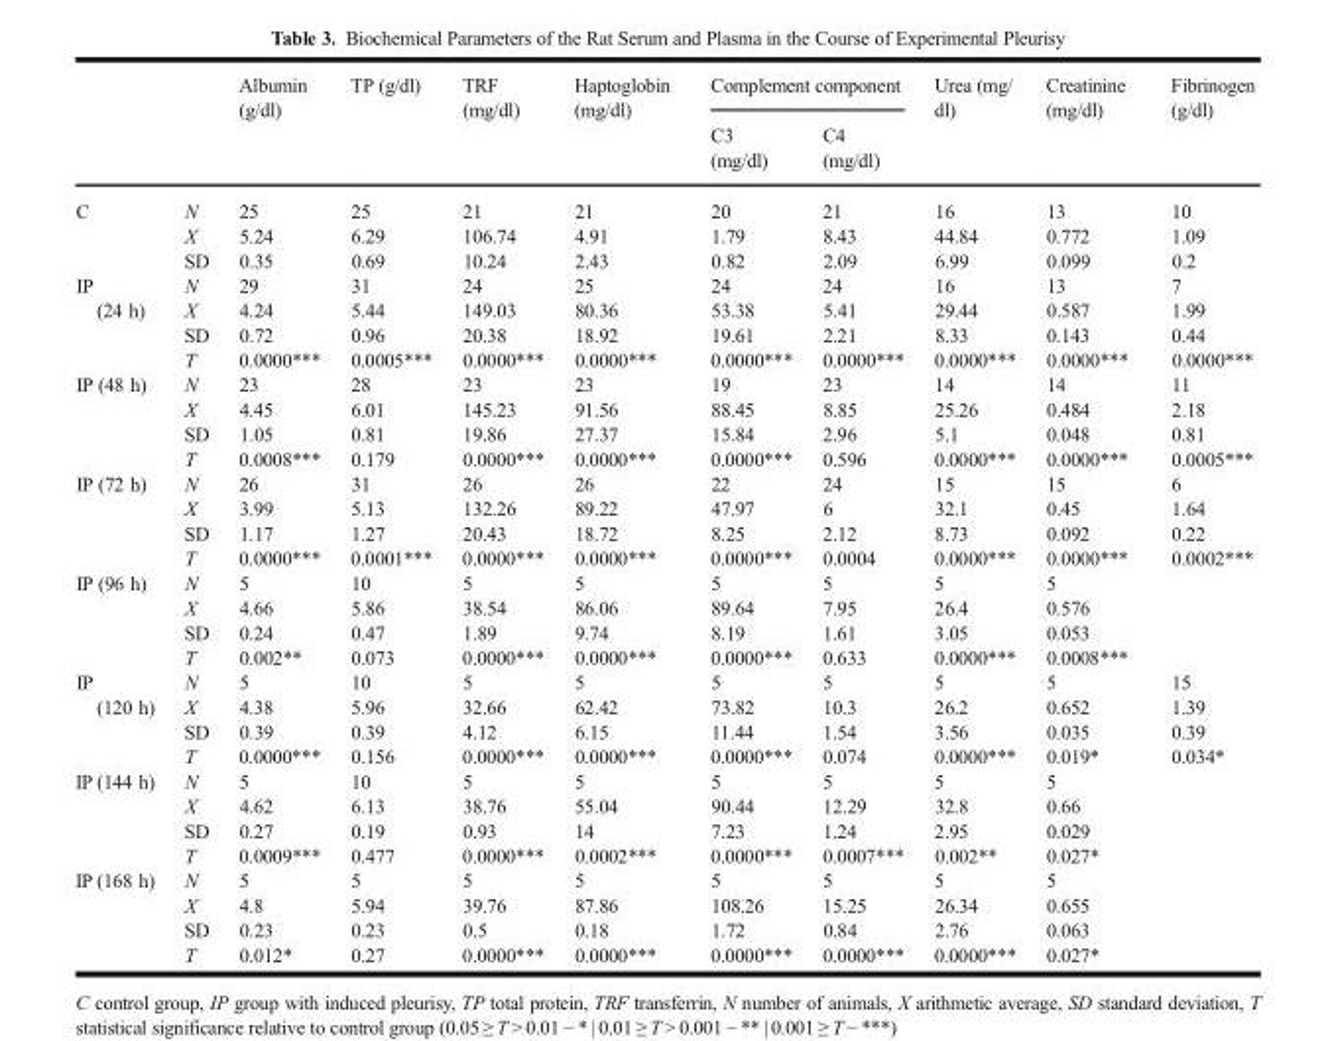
<table><thead><tr><td rowspan="2"></td><td rowspan="2"></td><td rowspan="2">Albumin (g/dl)</td><td rowspan="2">TP (g/dl)</td><td rowspan="2">TRF (mg/dl)</td><td rowspan="2">Haptoglobin (mg/dl)</td><td colspan="2">Complement component</td><td rowspan="2">Urea (mg/ dl)</td><td rowspan="2">Creatinine (mg/dl)</td><td rowspan="2">Fibrinogen (g/dl)</td></tr><tr><td>C3 (mg/dl)</td><td>C4 (mg/dl)</td></tr></thead><tbody><tr><td rowspan="3">C</td><td>N</td><td>25</td><td>25</td><td>21</td><td>21</td><td>20</td><td>21</td><td>16</td><td>13</td><td>10</td></tr><tr><td>X</td><td>5.24</td><td>6.29</td><td>106.74</td><td>4.91</td><td>1.79</td><td>8.43</td><td>44.84</td><td>0.772</td><td>1.09</td></tr><tr><td>SD</td><td>0.35</td><td>0.69</td><td>10.24</td><td>2.43</td><td>0.82</td><td>2.09</td><td>6.99</td><td>0.099</td><td>0.2</td></tr><tr><td rowspan="4">IP (24 h)</td><td>N</td><td>29</td><td>31</td><td>24</td><td>25</td><td>24</td><td>24</td><td>16</td><td>13</td><td>7</td></tr><tr><td>X</td><td>4.24</td><td>5.44</td><td>149.03</td><td>80.36</td><td>53.38</td><td>5.41</td><td>29.44</td><td>0.587</td><td>1.99</td></tr><tr><td>SD</td><td>0.72</td><td>0.96</td><td>20.38</td><td>18.92</td><td>19.61</td><td>2.21</td><td>8.33</td><td>0.143</td><td>0.44</td></tr><tr><td>T</td><td>0.0000***</td><td>0.0005***</td><td>0.0000***</td><td>0.0000***</td><td>0.0000***</td><td>0.0000***</td><td>0.0000***</td><td>0.0000***</td><td>0.0000***</td></tr><tr><td rowspan="4">IP (48 h)</td><td>N</td><td>23</td><td>28</td><td>23</td><td>23</td><td>19</td><td>23</td><td>14</td><td>14</td><td>11</td></tr><tr><td>X</td><td>4.45</td><td>6.01</td><td>145.23</td><td>91.56</td><td>88.45</td><td>8.85</td><td>25.26</td><td>0.484</td><td>2.18</td></tr><tr><td>SD</td><td>1.05</td><td>0.81</td><td>19.86</td><td>27.37</td><td>15.84</td><td>2.96</td><td>5.1</td><td>0.048</td><td>0.81</td></tr><tr><td>T</td><td>0.0008***</td><td>0.179</td><td>0.0000***</td><td>0.0000***</td><td>0.0000***</td><td>0.596</td><td>0.0000***</td><td>0.0000***</td><td>0.0005***</td></tr><tr><td rowspan="4">IP (72 h)</td><td>N</td><td>26</td><td>31</td><td>26</td><td>26</td><td>22</td><td>24</td><td>15</td><td>15</td><td>6</td></tr><tr><td>X</td><td>3.99</td><td>5.13</td><td>132.26</td><td>89.22</td><td>47.97</td><td>6</td><td>32.1</td><td>0.45</td><td>1.64</td></tr><tr><td>SD</td><td>1.17</td><td>1.27</td><td>20.43</td><td>18.72</td><td>8.25</td><td>2.12</td><td>8.73</td><td>0.092</td><td>0.22</td></tr><tr><td>T</td><td>0.0000***</td><td>0.0001***</td><td>0.0000***</td><td>0.0000***</td><td>0.0000***</td><td>0.0004</td><td>0.0000***</td><td>0.0000***</td><td>0.0002***</td></tr><tr><td rowspan="4">IP (96 h)</td><td>N</td><td>5</td><td>10</td><td>5</td><td>5</td><td>5</td><td>5</td><td>5</td><td>5</td><td rowspan="4"></td></tr><tr><td>X</td><td>4.66</td><td>5.86</td><td>38.54</td><td>86.06</td><td>89.64</td><td>7.95</td><td>26.4</td><td>0.576</td></tr><tr><td>SD</td><td>0.24</td><td>0.47</td><td>1.89</td><td>9.74</td><td>8.19</td><td>1.61</td><td>3.05</td><td>0.053</td></tr><tr><td>T</td><td>0.002**</td><td>0.073</td><td>0.0000***</td><td>0.0000***</td><td>0.0000***</td><td>0.633</td><td>0.0000***</td><td>0.0008***</td></tr><tr><td rowspan="4">IP (120 h)</td><td>N</td><td>5</td><td>10</td><td>5</td><td>5</td><td>5</td><td>5</td><td>5</td><td>5</td><td>15</td></tr><tr><td>X</td><td>4.38</td><td>5.96</td><td>32.66</td><td>62.42</td><td>73.82</td><td>10.3</td><td>26.2</td><td>0.652</td><td>1.39</td></tr><tr><td>SD</td><td>0.39</td><td>0.39</td><td>4.12</td><td>6.15</td><td>11.44</td><td>1.54</td><td>3.56</td><td>0.035</td><td>0.39</td></tr><tr><td>T</td><td>0.0000***</td><td>0.156</td><td>0.0000***</td><td>0.0000***</td><td>0.0000***</td><td>0.074</td><td>0.0000***</td><td>0.019*</td><td>0.034*</td></tr><tr><td rowspan="4">IP (144 h)</td><td>N</td><td>5</td><td>10</td><td>5</td><td>5</td><td>5</td><td>5</td><td>5</td><td>5</td><td rowspan="4"></td></tr><tr><td>X</td><td>4.62</td><td>6.13</td><td>38.76</td><td>55.04</td><td>90.44</td><td>12.29</td><td>32.8</td><td>0.66</td></tr><tr><td>SD</td><td>0.27</td><td>0.19</td><td>0.93</td><td>14</td><td>7.23</td><td>1.24</td><td>2.95</td><td>0.029</td></tr><tr><td>T</td><td>0.0009***</td><td>0.477</td><td>0.0000***</td><td>0.0002***</td><td>0.0000***</td><td>0.0007***</td><td>0.002**</td><td>0.027*</td></tr><tr><td rowspan="4">IP (168 h)</td><td>N</td><td>5</td><td>5</td><td>5</td><td>5</td><td>5</td><td>5</td><td>5</td><td>5</td><td rowspan="4"></td></tr><tr><td>X</td><td>4.8</td><td>5.94</td><td>39.76</td><td>87.86</td><td>108.26</td><td>15.25</td><td>26.34</td><td>0.655</td></tr><tr><td>SD</td><td>0.23</td><td>0.23</td><td>0.5</td><td>0.18</td><td>1.72</td><td>0.84</td><td>2.76</td><td>0.063</td></tr><tr><td>T</td><td>0.012*</td><td>0.27</td><td>0.0000***</td><td>0.0000***</td><td>0.0000***</td><td>0.0000***</td><td>0.0000***</td><td>0.027*</td></tr></tbody></table>